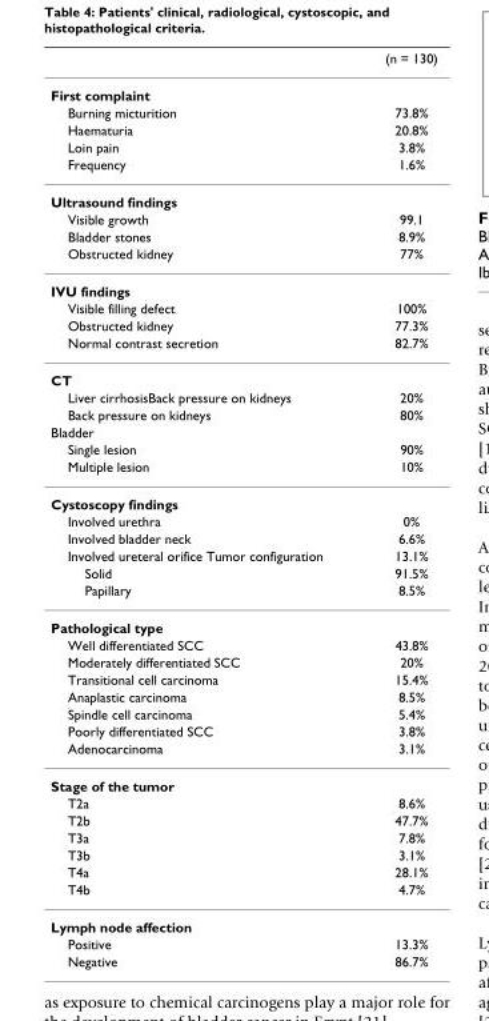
<table><thead><tr><td></td><td>(n = 130)</td></tr></thead><tbody><tr><td colspan="2">First complaint</td></tr><tr><td>Burning micturition</td><td>73.8%</td></tr><tr><td>Haematuria</td><td>20.8%</td></tr><tr><td>Loin pain</td><td>3.8%</td></tr><tr><td>Frequency</td><td>1.6%</td></tr><tr><td colspan="2">Ultrasound findings</td></tr><tr><td>Visible growth</td><td>99.1</td></tr><tr><td>Bladder stones</td><td>8.9%</td></tr><tr><td>Obstructed kidney</td><td>77%</td></tr><tr><td colspan="2">IVU findings</td></tr><tr><td>Visible filling defect</td><td>100%</td></tr><tr><td>Obstructed kidney</td><td>77.3%</td></tr><tr><td>Normal contrast secretion</td><td>82.7%</td></tr><tr><td colspan="2">CT</td></tr><tr><td>Liver cirrhosisBack pressure on kidneys</td><td>20%</td></tr><tr><td>Back pressure on kidneys</td><td>80%</td></tr><tr><td colspan="2">Bladder</td></tr><tr><td>Single lesion</td><td>90%</td></tr><tr><td>Multiple lesion</td><td>10%</td></tr><tr><td colspan="2">Cystoscopy findings</td></tr><tr><td>Involved urethra</td><td>0%</td></tr><tr><td>Involved bladder neck</td><td>6.6%</td></tr><tr><td>Involved ureteral orifice Tumor configuration</td><td>13.1%</td></tr><tr><td>Solid</td><td>91.5%</td></tr><tr><td>Papillary</td><td>8.5%</td></tr><tr><td colspan="2">Pathological type</td></tr><tr><td>Well differentiated SCC</td><td>43.8%</td></tr><tr><td>Moderately differentiated SCC</td><td>20%</td></tr><tr><td>Transitional cell carcinoma</td><td>15.4%</td></tr><tr><td>Anaplastic carcinoma</td><td>8.5%</td></tr><tr><td>Spindle cell carcinoma</td><td>5.4%</td></tr><tr><td>Poorly differentiated SCC</td><td>3.8%</td></tr><tr><td>Adenocarcinoma</td><td>3.1%</td></tr><tr><td colspan="2">Stage of the tumor</td></tr><tr><td>T2a</td><td>8.6%</td></tr><tr><td>T2b</td><td>47.7%</td></tr><tr><td>T3a</td><td>7.8%</td></tr><tr><td>T3b</td><td>3.1%</td></tr><tr><td>T4a</td><td>28.1%</td></tr><tr><td>T4b</td><td>4.7%</td></tr><tr><td colspan="2">Lymph node affection</td></tr><tr><td>Positive</td><td>13.3%</td></tr><tr><td>Negative</td><td>86.7%</td></tr></tbody></table>